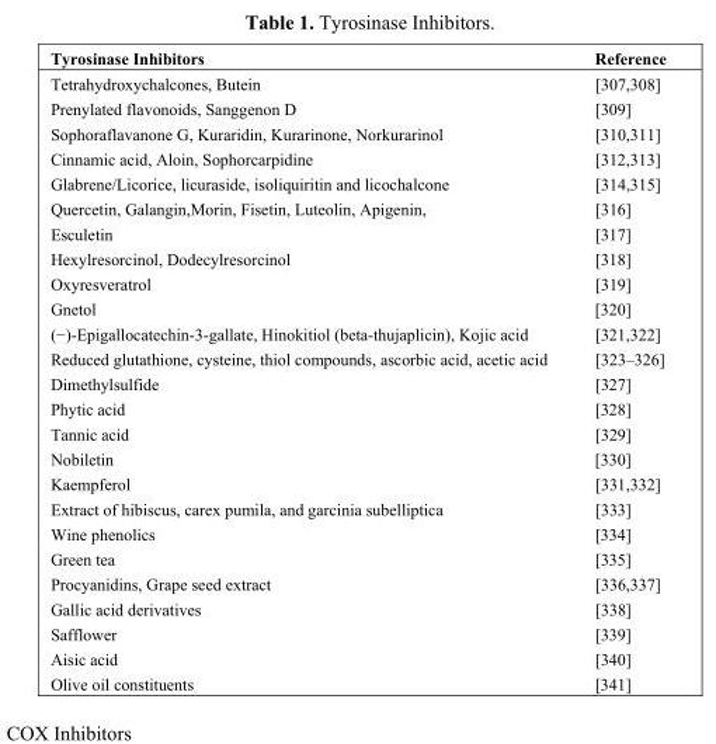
<table><thead><tr><td>Tyrosinase Inhibitors</td><td>Reference</td></tr></thead><tbody><tr><td>Tetrahydroxychalcones, Butein</td><td>[307,308]</td></tr><tr><td>Prenylated flavonoids, Sanggenon D</td><td>[309]</td></tr><tr><td>Sophoraflavanone G, Kuraridin, Kurarinone, Norkurarinol</td><td>[310,311]</td></tr><tr><td>Cinnamic acid, Aloin, Sophorcarpidine</td><td>[312,313]</td></tr><tr><td>Glabrene/Licorice, licuraside, isoliquiritin and licochalcone</td><td>[314,315]</td></tr><tr><td>Quercetin, Galangin,Morin, Fisetin, Luteolin, Apigenin,</td><td>[316]</td></tr><tr><td>Esculetin</td><td>[317]</td></tr><tr><td>Hexylresorcinol, Dodecylresorcinol</td><td>[318]</td></tr><tr><td>Oxyresveratrol</td><td>[319]</td></tr><tr><td>Gnetol</td><td>[320]</td></tr><tr><td>(−)-Epigallocatechin-3-gallate, Hinokitiol (beta-thujaplicin), Kojic acid</td><td>[321,322]</td></tr><tr><td>Reduced glutathione, cysteine, thiol compounds, ascorbic acid, acetic acid</td><td>[323–326]</td></tr><tr><td>Dimethylsulfide</td><td>[327]</td></tr><tr><td>Phytic acid</td><td>[328]</td></tr><tr><td>Tannic acid</td><td>[329]</td></tr><tr><td>Nobiletin</td><td>[330]</td></tr><tr><td>Kaempferol</td><td>[331,332]</td></tr><tr><td>Extract of hibiscus, carex pumila, and garcinia subelliptica</td><td>[333]</td></tr><tr><td>Wine phenolics</td><td>[334]</td></tr><tr><td>Green tea</td><td>[335]</td></tr><tr><td>Procyanidins, Grape seed extract</td><td>[336,337]</td></tr><tr><td>Gallic acid derivatives</td><td>[338]</td></tr><tr><td>Safflower</td><td>[339]</td></tr><tr><td>Aisic acid</td><td>[340]</td></tr><tr><td>Olive oil constituents</td><td>[341]</td></tr></tbody></table>